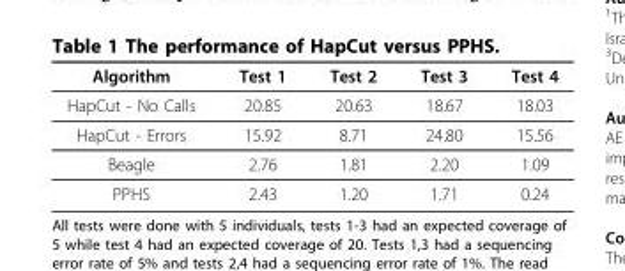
<table><thead><tr><td>Algorithm</td><td>Test 1</td><td>Test 2</td><td>Test 3</td><td>Test 4</td></tr></thead><tbody><tr><td>HapCut - No Calls</td><td>20.85</td><td>20.63</td><td>18.67</td><td>18.03</td></tr><tr><td>HapCut - Errors</td><td>15.92</td><td>8.71</td><td>24.80</td><td>15.56</td></tr><tr><td>Beagle</td><td>2.76</td><td>1.81</td><td>2.20</td><td>1.09</td></tr><tr><td>PPHS</td><td>2.43</td><td>1.20</td><td>1.71</td><td>0.24</td></tr></tbody></table>